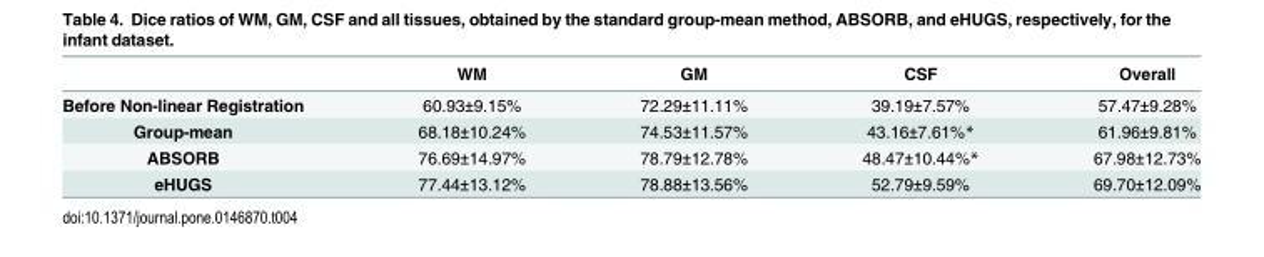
<table><thead><tr><td></td><td>WM</td><td>GM</td><td>CSF</td><td>Overall</td></tr></thead><tbody><tr><td>Before Non-linear Registration</td><td>60.93±9.15%</td><td>72.29±11.11%</td><td>39.19±7.57%</td><td>57.47±9.28%</td></tr><tr><td>Group-mean</td><td>68.18±10.24%</td><td>74.53±11.57%</td><td>43.16±7.61%*</td><td>61.96±9.81%</td></tr><tr><td>ABSORB</td><td>76.69±14.97%</td><td>78.79±12.78%</td><td>48.47±10.44%*</td><td>67.98±12.73%</td></tr><tr><td>eHUGS</td><td>77.44±13.12%</td><td>78.88±13.56%</td><td>52.79±9.59%</td><td>69.70±12.09%</td></tr></tbody></table>